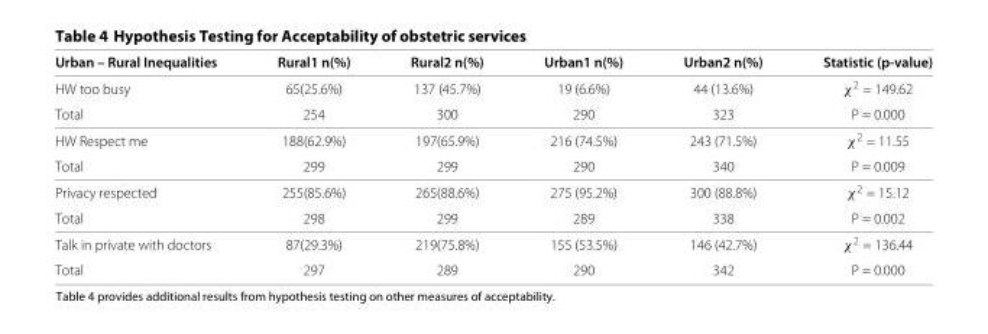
<table><thead><tr><td>Urban – Rural Inequalities</td><td>Rural1 n(%)</td><td>Rural2 n(%)</td><td>Urban1 n(%)</td><td>Urban2 n(%)</td><td>Statistic (p-value)</td></tr></thead><tbody><tr><td>HW too busy</td><td>65(25.6%)</td><td>137 (45.7%)</td><td>19 (6.6%)</td><td>44 (13.6%)</td><td>χ<sup>2</sup> = 149.62</td></tr><tr><td>Total</td><td>254</td><td>300</td><td>290</td><td>323</td><td>P = 0.000</td></tr><tr><td>HW Respect me</td><td>188(62.9%)</td><td>197(65.9%)</td><td>216 (74.5%)</td><td>243 (71.5%)</td><td>χ<sup>2</sup> = 11.55</td></tr><tr><td>Total</td><td>299</td><td>299</td><td>290</td><td>340</td><td>P = 0.009</td></tr><tr><td>Privacy respected</td><td>255(85.6%)</td><td>265(88.6%)</td><td>275 (95.2%)</td><td>300 (88.8%)</td><td>χ<sup>2</sup> = 15.12</td></tr><tr><td>Total</td><td>298</td><td>299</td><td>289</td><td>338</td><td>P = 0.002</td></tr><tr><td>Talk in private with doctors</td><td>87(29.3%)</td><td>219(75.8%)</td><td>155 (53.5%)</td><td>146 (42.7%)</td><td>χ<sup>2</sup> = 136.44</td></tr><tr><td>Total</td><td>297</td><td>289</td><td>290</td><td>342</td><td>P = 0.000</td></tr></tbody></table>